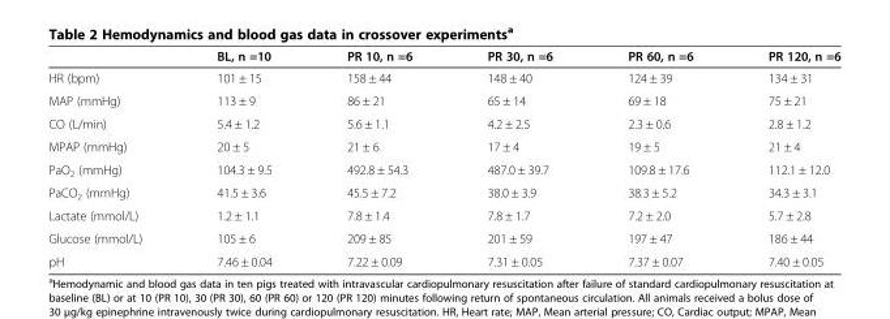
<table><thead><tr><td></td><td>BL, n =10</td><td>PR 10, n =6</td><td>PR 30, n =6</td><td>PR 60, n =6</td><td>PR 120, n =6</td></tr></thead><tbody><tr><td>HR (bpm)</td><td>101 ± 15</td><td>158 ± 44</td><td>148 ± 40</td><td>124 ± 39</td><td>134 ± 31</td></tr><tr><td>MAP (mmHg)</td><td>113 ± 9</td><td>86 ± 21</td><td>65 ± 14</td><td>69 ± 18</td><td>75 ± 21</td></tr><tr><td>CO (L/min)</td><td>5.4 ± 1.2</td><td>5.6 ± 1.1</td><td>4.2 ± 2.5</td><td>2.3 ± 0.6</td><td>2.8 ± 1.2</td></tr><tr><td>MPAP (mmHg)</td><td>20 ± 5</td><td>21 ± 6</td><td>17 ± 4</td><td>19 ± 5</td><td>21 ± 4</td></tr><tr><td>PaO<sub>2</sub> (mmHg)</td><td>104.3 ± 9.5</td><td>492.8 ± 54.3</td><td>487.0 ± 39.7</td><td>109.8 ± 17.6</td><td>112.1 ± 12.0</td></tr><tr><td>PaCO<sub>2</sub> (mmHg)</td><td>41.5 ± 3.6</td><td>45.5 ± 7.2</td><td>38.0 ± 3.9</td><td>38.3 ± 5.2</td><td>34.3 ± 3.1</td></tr><tr><td>Lactate (mmol/L)</td><td>1.2 ± 1.1</td><td>7.8 ± 1.4</td><td>7.8 ± 1.7</td><td>7.2 ± 2.0</td><td>5.7 ± 2.8</td></tr><tr><td>Glucose (mmol/L)</td><td>105 ± 6</td><td>209 ± 85</td><td>201 ± 59</td><td>197 ± 47</td><td>186 ± 44</td></tr><tr><td>pH</td><td>7.46 ± 0.04</td><td>7.22 ± 0.09</td><td>7.31 ± 0.05</td><td>7.37 ± 0.07</td><td>7.40 ± 0.05</td></tr></tbody></table>